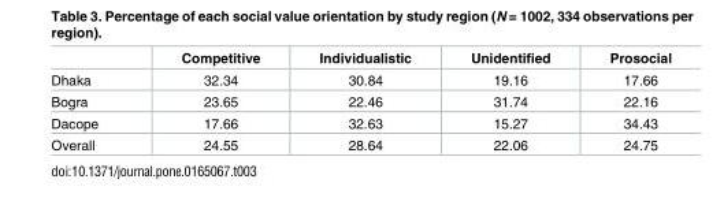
<table><thead><tr><td></td><td>Competitive</td><td>Individualistic</td><td>Unidentified</td><td>Prosocial</td></tr></thead><tbody><tr><td>Dhaka</td><td>32.34</td><td>30.84</td><td>19.16</td><td>17.66</td></tr><tr><td>Bogra</td><td>23.65</td><td>22.46</td><td>31.74</td><td>22.16</td></tr><tr><td>Dacope</td><td>17.66</td><td>32.63</td><td>15.27</td><td>34.43</td></tr><tr><td>Overall</td><td>24.55</td><td>28.64</td><td>22.06</td><td>24.75</td></tr></tbody></table>